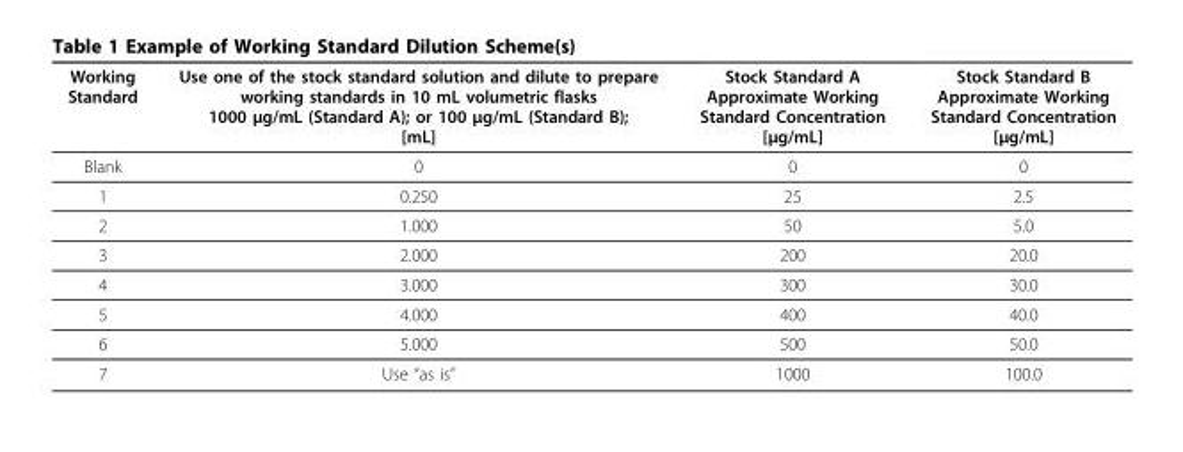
<table><thead><tr><td>Working Standard</td><td>Use one of the stock standard solution and dilute to prepare working standards in 10 mL volumetric flasks 1000 μg/mL (Standard A); or 100 μg/mL (Standard B); [mL]</td><td>Stock Standard A Approximate Working Standard Concentration [μg/mL]</td><td>Stock Standard B Approximate Working Standard Concentration [μg/mL]</td></tr></thead><tbody><tr><td>Blank</td><td>0</td><td>0</td><td>0</td></tr><tr><td>1</td><td>0.250</td><td>25</td><td>2.5</td></tr><tr><td>2</td><td>1.000</td><td>50</td><td>5.0</td></tr><tr><td>3</td><td>2.000</td><td>200</td><td>20.0</td></tr><tr><td>4</td><td>3.000</td><td>300</td><td>30.0</td></tr><tr><td>5</td><td>4.000</td><td>400</td><td>40.0</td></tr><tr><td>6</td><td>5.000</td><td>500</td><td>50.0</td></tr><tr><td>7</td><td>Use “as is”</td><td>1000</td><td>100.0</td></tr></tbody></table>